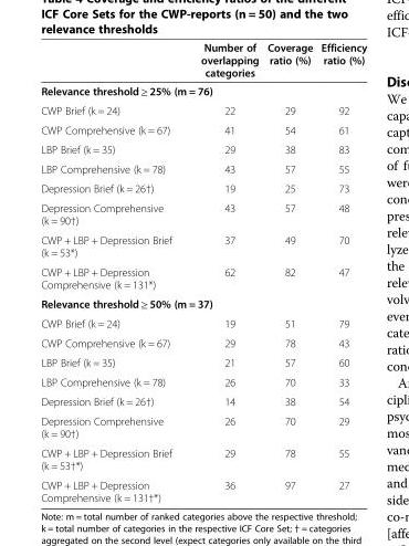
<table><thead><tr><td></td><td>Number of overlapping categories</td><td>Coverage ratio (%)</td><td>Efficiency ratio (%)</td></tr></thead><tbody><tr><td colspan="4">Relevance threshold ≥ 25% (m = 76)</td></tr><tr><td>CWP Brief (k = 24)</td><td>22</td><td>29</td><td>92</td></tr><tr><td>CWP Comprehensive (k = 67)</td><td>41</td><td>54</td><td>61</td></tr><tr><td>LBP Brief (k = 35)</td><td>29</td><td>38</td><td>83</td></tr><tr><td>LBP Comprehensive (k = 78)</td><td>43</td><td>57</td><td>55</td></tr><tr><td>Depression Brief (k = 26†)</td><td>19</td><td>25</td><td>73</td></tr><tr><td>Depression Comprehensive (k = 90†)</td><td>43</td><td>57</td><td>48</td></tr><tr><td>CWP + LBP + Depression Brief (k = 53*)</td><td>37</td><td>49</td><td>70</td></tr><tr><td>CWP + LBP + Depression Comprehensive (k = 131*)</td><td>62</td><td>82</td><td>47</td></tr><tr><td colspan="4">Relevance threshold ≥ 50% (m = 37)</td></tr><tr><td>CWP Brief (k = 24)</td><td>19</td><td>51</td><td>79</td></tr><tr><td>CWP Comprehensive (k = 67)</td><td>29</td><td>78</td><td>43</td></tr><tr><td>LBP Brief (k = 35)</td><td>21</td><td>57</td><td>60</td></tr><tr><td>LBP Comprehensive (k = 78)</td><td>26</td><td>70</td><td>33</td></tr><tr><td>Depression Brief (k = 26†)</td><td>14</td><td>38</td><td>54</td></tr><tr><td>Depression Comprehensive (k = 90†)</td><td>26</td><td>70</td><td>29</td></tr><tr><td>CWP + LBP + Depression Brief (k = 53†*)</td><td>29</td><td>78</td><td>55</td></tr><tr><td>CWP + LBP + Depression Comprehensive (k = 131†*)</td><td>36</td><td>97</td><td>27</td></tr></tbody></table>